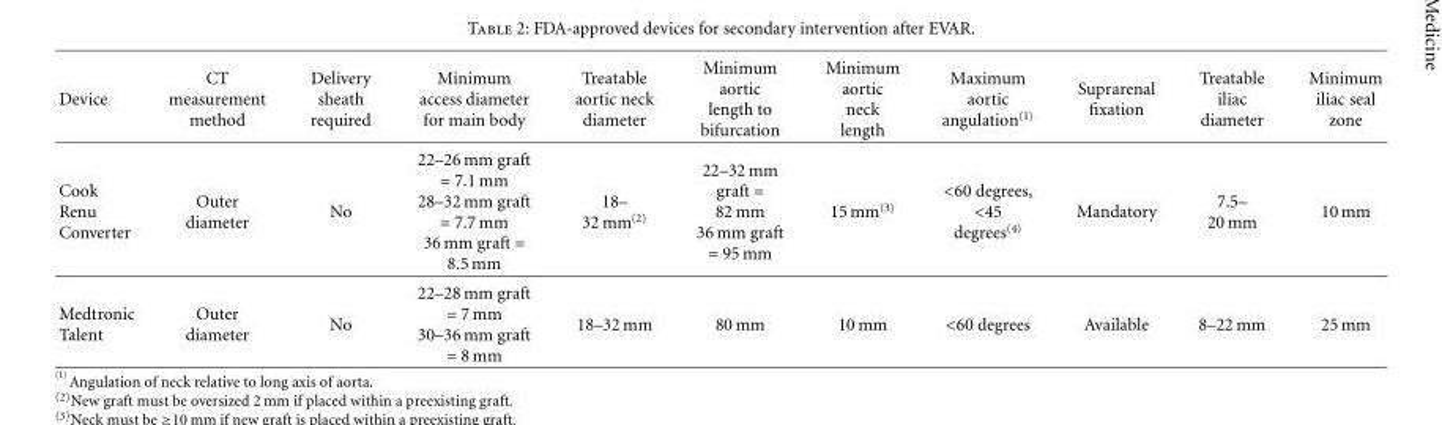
<table><thead><tr><td>Device</td><td>CT measurement method</td><td>Delivery sheath required</td><td>Minimum access diameter for main body</td><td>Treatable aortic neck diameter</td><td>Minimum aortic length to bifurcation</td><td>Minimum aortic neck length</td><td>Maximum aortic angulation<sup>(1)</sup></td><td>Suprarenal fixation</td><td>Treatable iliac diameter</td><td>Minimum iliac seal zone</td></tr></thead><tbody><tr><td>Cook Renu Converter</td><td>Outer diameter</td><td>No</td><td>22–26 mm graft = 7.1 mm 28–32 mm graft = 7.7 mm 36 mm graft = 8.5 mm</td><td>18– 32 mm<sup>(2)</sup></td><td>22–32 mm graft = 82 mm 36 mm graft = 95 mm</td><td>15 mm<sup>(3)</sup></td><td>&lt;60 degrees, &lt;45 degrees<sup>(4)</sup></td><td>Mandatory</td><td>7.5– 20 mm</td><td>10 mm</td></tr><tr><td>Medtronic Talent</td><td>Outer diameter</td><td>No</td><td>22–28 mm graft = 7 mm 30–36 mm graft = 8 mm</td><td>18–32 mm</td><td>80 mm</td><td>10 mm</td><td>&lt;60 degrees</td><td>Available</td><td>8–22 mm</td><td>25 mm</td></tr></tbody></table>